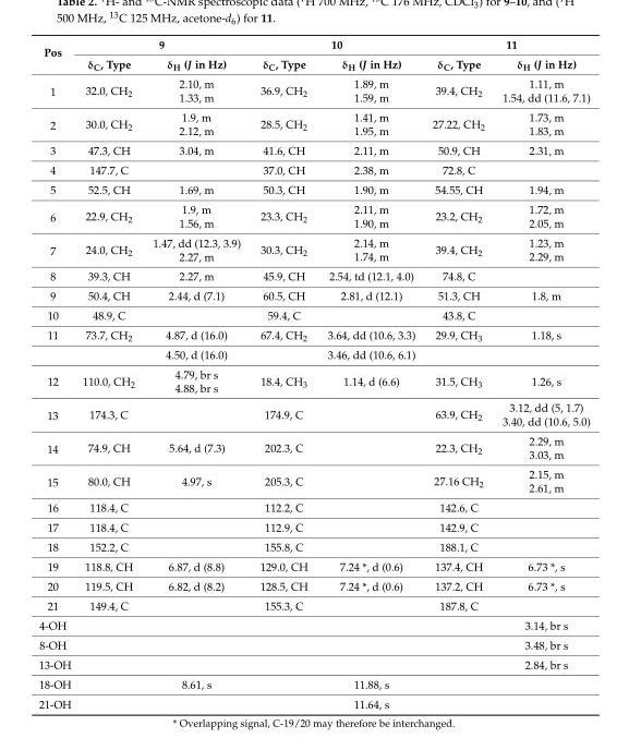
<table><thead><tr><td rowspan="2">Pos</td><td colspan="2">9</td><td colspan="2">10</td><td colspan="2">11</td></tr><tr><td>δ<sub>C</sub>, Type</td><td>δ<sub>H</sub> (J in Hz)</td><td>δ<sub>C</sub>, Type</td><td>δ<sub>H</sub> (J in Hz)</td><td>δ<sub>C</sub>, Type</td><td>δ<sub>H</sub> (J in Hz)</td></tr></thead><tbody><tr><td rowspan="2">1</td><td rowspan="2">32.0, CH<sub>2</sub></td><td>2.10, m</td><td rowspan="2">36.9, CH<sub>2</sub></td><td>1.89, m</td><td rowspan="2">39.4, CH<sub>2</sub></td><td>1.11, m</td></tr><tr><td>1.33, m</td><td>1.59, m</td><td>1.54, dd (11.6, 7.1)</td></tr><tr><td rowspan="2">2</td><td rowspan="2">30.0, CH<sub>2</sub></td><td>1.9, m</td><td rowspan="2">28.5, CH<sub>2</sub></td><td>1.41, m</td><td rowspan="2">27.22, CH<sub>2</sub></td><td>1.73, m</td></tr><tr><td>2.12, m</td><td>1.95, m</td><td>1.83, m</td></tr><tr><td>3</td><td>47.3, CH</td><td>3.04, m</td><td>41.6, CH</td><td>2.11, m</td><td>50.9, CH</td><td>2.31, m</td></tr><tr><td>4</td><td>147.7, C</td><td></td><td>37.0, CH</td><td>2.38, m</td><td>72.8, C</td><td></td></tr><tr><td>5</td><td>52.5, CH</td><td>1.69, m</td><td>50.3, CH</td><td>1.90, m</td><td>54.55, CH</td><td>1.94, m</td></tr><tr><td rowspan="2">6</td><td rowspan="2">22.9, CH<sub>2</sub></td><td>1.9, m</td><td rowspan="2">23.3, CH<sub>2</sub></td><td>2.11, m</td><td rowspan="2">23.2, CH<sub>2</sub></td><td>1.72, m</td></tr><tr><td>1.56, m</td><td>1.90, m</td><td>2.05, m</td></tr><tr><td rowspan="2">7</td><td rowspan="2">24.0, CH<sub>2</sub></td><td rowspan="2">1.47, dd (12.3, 3.9) 2.27, m</td><td rowspan="2">30.3, CH<sub>2</sub></td><td>2.14, m</td><td rowspan="2">39.4, CH<sub>2</sub></td><td>1.23, m</td></tr><tr><td>1.74, m</td><td>2.29, m</td></tr><tr><td>8</td><td>39.3, CH</td><td>2.27, m</td><td>45.9, CH</td><td>2.54, td (12.1, 4.0)</td><td>74.8, C</td><td></td></tr><tr><td>9</td><td>50.4, CH</td><td>2.44, d (7.1)</td><td>60.5, CH</td><td>2.81, d (12.1)</td><td>51.3, CH</td><td>1.8, m</td></tr><tr><td>10</td><td>48.9, C</td><td></td><td>59.4, C</td><td></td><td>43.8, C</td><td></td></tr><tr><td rowspan="2">11</td><td>73.7, CH<sub>2</sub></td><td>4.87, d (16.0)</td><td>67.4, CH<sub>2</sub></td><td>3.64, dd (10.6, 3.3)</td><td>29.9, CH<sub>3</sub></td><td>1.18, s</td></tr><tr><td></td><td>4.50, d (16.0)</td><td></td><td>3.46, dd (10.6, 6.1)</td><td></td><td></td></tr><tr><td>12</td><td>110.0, CH<sub>2</sub></td><td>4.79, br s 4.88, br s</td><td>18.4, CH<sub>3</sub></td><td>1.14, d (6.6)</td><td>31.5, CH<sub>3</sub></td><td>1.26, s</td></tr><tr><td rowspan="2">13</td><td rowspan="2">174.3, C</td><td rowspan="2"></td><td rowspan="2">174.9, C</td><td rowspan="2"></td><td rowspan="2">63.9, CH<sub>2</sub></td><td>3.12, dd (5, 1.7)</td></tr><tr><td>3.40, dd (10.6, 5.0)</td></tr><tr><td rowspan="2">14</td><td rowspan="2">74.9, CH</td><td rowspan="2">5.64, d (7.3)</td><td rowspan="2">202.3, C</td><td rowspan="2"></td><td rowspan="2">22.3, CH<sub>2</sub></td><td>2.29, m</td></tr><tr><td>3.03, m</td></tr><tr><td rowspan="2">15</td><td rowspan="2">80.0, CH</td><td rowspan="2">4.97, s</td><td rowspan="2">205.3, C</td><td rowspan="2"></td><td rowspan="2">27.16 CH<sub>2</sub></td><td>2.15, m</td></tr><tr><td>2.61, m</td></tr><tr><td>16</td><td>118.4, C</td><td></td><td>112.2, C</td><td></td><td>142.6, C</td><td></td></tr><tr><td>17</td><td>118.4, C</td><td></td><td>112.9, C</td><td></td><td>142.9, C</td><td></td></tr><tr><td>18</td><td>152.2, C</td><td></td><td>155.8, C</td><td></td><td>188.1, C</td><td></td></tr><tr><td>19</td><td>118.8, CH</td><td>6.87, d (8.8)</td><td>129.0, CH</td><td>7.24 *, d (0.6)</td><td>137.4, CH</td><td>6.73 *, s</td></tr><tr><td>20</td><td>119.5, CH</td><td>6.82, d (8.2)</td><td>128.5, CH</td><td>7.24 *, d (0.6)</td><td>137.2, CH</td><td>6.73 *, s</td></tr><tr><td>21</td><td>149.4, C</td><td></td><td>155.3, C</td><td></td><td>187.8, C</td><td></td></tr><tr><td>4-OH</td><td></td><td></td><td></td><td></td><td></td><td>3.14, br s</td></tr><tr><td>8-OH</td><td></td><td></td><td></td><td></td><td></td><td>3.48, br s</td></tr><tr><td>13-OH</td><td></td><td></td><td></td><td></td><td></td><td>2.84, br s</td></tr><tr><td>18-OH</td><td></td><td>8.61, s</td><td></td><td>11.88, s</td><td></td><td></td></tr><tr><td>21-OH</td><td></td><td></td><td></td><td>11.64, s</td><td></td><td></td></tr></tbody></table>